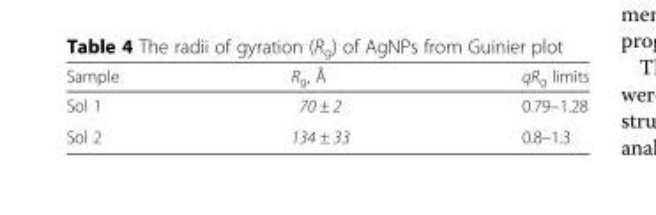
<table><thead><tr><td>Sample</td><td>R<sub>g</sub>, Å</td><td>qR<sub>g</sub> limits</td></tr></thead><tbody><tr><td>Sol 1</td><td>70 ± 2</td><td>0.79–1.28</td></tr><tr><td>Sol 2</td><td>134 ± 33</td><td>0.8–1.3</td></tr></tbody></table>